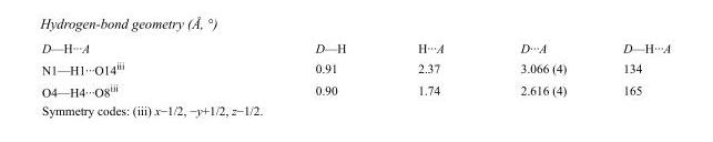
<table><tbody><tr><td>D—H···A</td><td>D—H</td><td>H···A</td><td>D···A</td><td>D—H···A</td></tr><tr><td>N1—H1···O14<sup>iii</sup></td><td>0.91</td><td>2.37</td><td>3.066 (4)</td><td>134</td></tr><tr><td>O4—H4···O8<sup>iii</sup></td><td>0.90</td><td>1.74</td><td>2.616 (4)</td><td>165</td></tr></tbody></table>